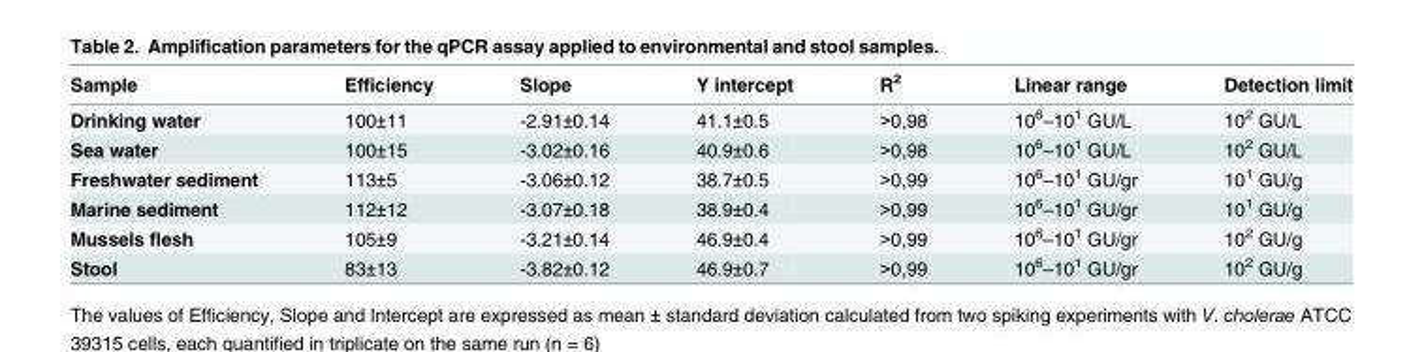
<table><thead><tr><td>Sample</td><td>Efficiency</td><td>Slope</td><td>Y intercept</td><td>R<sup>2</sup></td><td>Linear range</td><td>Detection limit</td></tr></thead><tbody><tr><td>Drinking water</td><td>100±11</td><td>-2.91±0.14</td><td>41.1±0.5</td><td>&gt;0,98</td><td>10<sup>6</sup>–10<sup>1</sup> GU/L</td><td>10<sup>2</sup> GU/L</td></tr><tr><td>Sea water</td><td>100±15</td><td>-3.02±0.16</td><td>40.9±0.6</td><td>&gt;0,98</td><td>10<sup>6</sup>–10<sup>1</sup> GU/L</td><td>10<sup>2</sup> GU/L</td></tr><tr><td>Freshwater sediment</td><td>113±5</td><td>-3.06±0.12</td><td>38.7±0.5</td><td>&gt;0,99</td><td>10<sup>6</sup>–10<sup>1</sup> GU/gr</td><td>10<sup>1</sup> GU/g</td></tr><tr><td>Marine sediment</td><td>112±12</td><td>-3.07±0.18</td><td>38.9±0.4</td><td>&gt;0,99</td><td>10<sup>6</sup>–10<sup>1</sup> GU/gr</td><td>10<sup>1</sup> GU/g</td></tr><tr><td>Mussels flesh</td><td>105±9</td><td>-3.21±0.14</td><td>46.9±0.4</td><td>&gt;0,99</td><td>10<sup>6</sup>–10<sup>1</sup> GU/gr</td><td>10<sup>2</sup> GU/g</td></tr><tr><td>Stool</td><td>83±13</td><td>-3.82±0.12</td><td>46.9±0.7</td><td>&gt;0,99</td><td>10<sup>6</sup>–10<sup>1</sup> GU/gr</td><td>10<sup>2</sup> GU/g</td></tr></tbody></table>